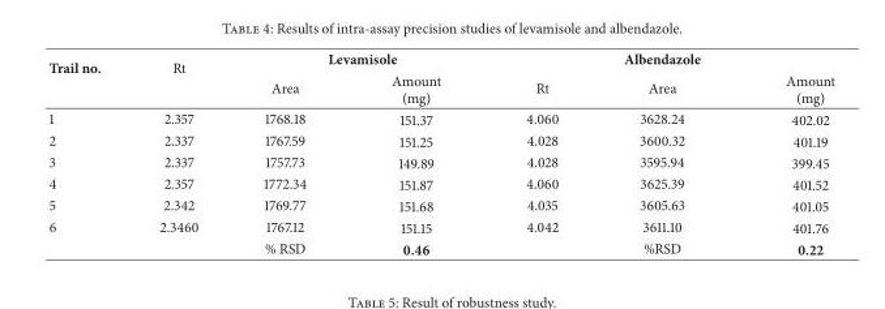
<table><thead><tr><td rowspan="2">Trail no.</td><td rowspan="2">Rt</td><td colspan="2">Levamisole</td><td rowspan="2">Rt</td><td rowspan="2">Albendazole Area</td><td rowspan="2">Amount (mg)</td></tr><tr><td>Area</td><td>Amount (mg)</td></tr></thead><tbody><tr><td>1</td><td>2.357</td><td>1768.18</td><td>151.37</td><td>4.060</td><td>3628.24</td><td>402.02</td></tr><tr><td>2</td><td>2.337</td><td>1767.59</td><td>151.25</td><td>4.028</td><td>3600.32</td><td>401.19</td></tr><tr><td>3</td><td>2.337</td><td>1757.73</td><td>149.89</td><td>4.028</td><td>3595.94</td><td>399.45</td></tr><tr><td>4</td><td>2.357</td><td>1772.34</td><td>151.87</td><td>4.060</td><td>3625.39</td><td>401.52</td></tr><tr><td>5</td><td>2.342</td><td>1769.77</td><td>151.68</td><td>4.035</td><td>3605.63</td><td>401.05</td></tr><tr><td rowspan="2">6</td><td>2.3460</td><td>1767.12</td><td>151.15</td><td>4.042</td><td>3611.10</td><td>401.76</td></tr><tr><td></td><td>% RSD</td><td>0.46</td><td></td><td>%RSD</td><td>0.22</td></tr></tbody></table>